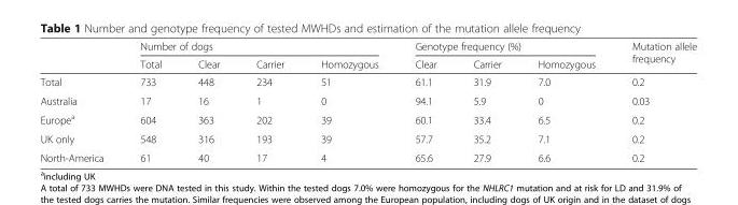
<table><thead><tr><td rowspan="2"></td><td colspan="4">Number of dogs</td><td colspan="3">Genotype frequency (%)</td><td rowspan="2">Mutation allele frequency</td></tr><tr><td>Total</td><td>Clear</td><td>Carrier</td><td>Homozygous</td><td>Clear</td><td>Carrier</td><td>Homozygous</td></tr></thead><tbody><tr><td>Total</td><td>733</td><td>448</td><td>234</td><td>51</td><td>61.1</td><td>31.9</td><td>7.0</td><td>0.2</td></tr><tr><td>Australia</td><td>17</td><td>16</td><td>1</td><td>0</td><td>94.1</td><td>5.9</td><td>0</td><td>0.03</td></tr><tr><td>Europe<sup>a</sup></td><td>604</td><td>363</td><td>202</td><td>39</td><td>60.1</td><td>33.4</td><td>6.5</td><td>0.2</td></tr><tr><td>UK only</td><td>548</td><td>316</td><td>193</td><td>39</td><td>57.7</td><td>35.2</td><td>7.1</td><td>0.2</td></tr><tr><td>North-America</td><td>61</td><td>40</td><td>17</td><td>4</td><td>65.6</td><td>27.9</td><td>6.6</td><td>0.2</td></tr></tbody></table>